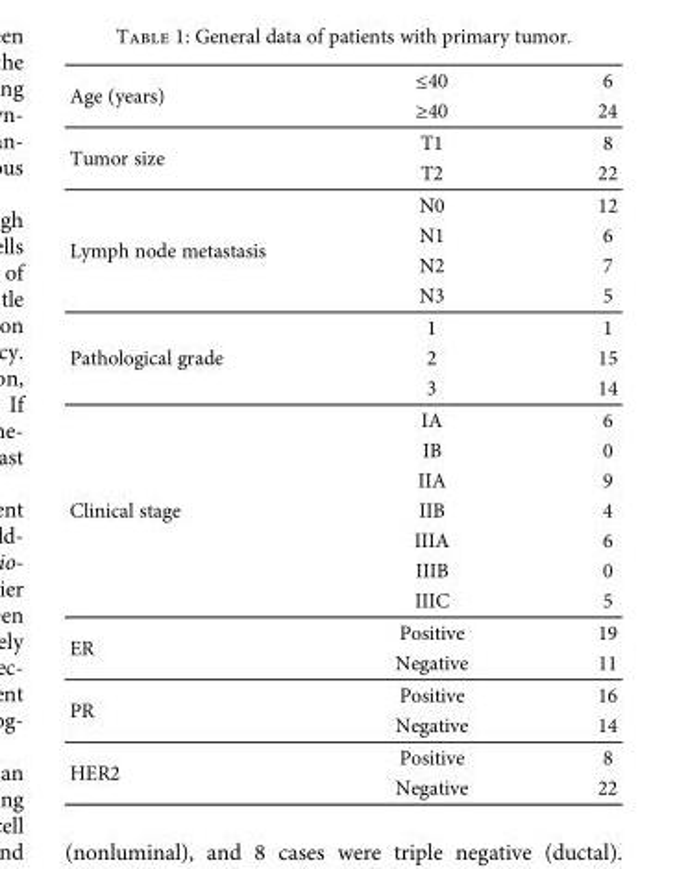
<table><tbody><tr><td rowspan="2">Age (years)</td><td>≤40</td><td>6</td></tr><tr><td>≥40</td><td>24</td></tr><tr><td rowspan="2">Tumor size</td><td>T1</td><td>8</td></tr><tr><td>T2</td><td>22</td></tr><tr><td rowspan="4">Lymph node metastasis</td><td>N0</td><td>12</td></tr><tr><td>N1</td><td>6</td></tr><tr><td>N2</td><td>7</td></tr><tr><td>N3</td><td>5</td></tr><tr><td rowspan="3">Pathological grade</td><td>1</td><td>1</td></tr><tr><td>2</td><td>15</td></tr><tr><td>3</td><td>14</td></tr><tr><td rowspan="7">Clinical stage</td><td>IA</td><td>6</td></tr><tr><td>IB</td><td>0</td></tr><tr><td>IIA</td><td>9</td></tr><tr><td>IIB</td><td>4</td></tr><tr><td>IIIA</td><td>6</td></tr><tr><td>IIIB</td><td>0</td></tr><tr><td>IIIC</td><td>5</td></tr><tr><td rowspan="2">ER</td><td>Positive</td><td>19</td></tr><tr><td>Negative</td><td>11</td></tr><tr><td rowspan="2">PR</td><td>Positive</td><td>16</td></tr><tr><td>Negative</td><td>14</td></tr><tr><td rowspan="2">HER2</td><td>Positive</td><td>8</td></tr><tr><td>Negative</td><td>22</td></tr></tbody></table>